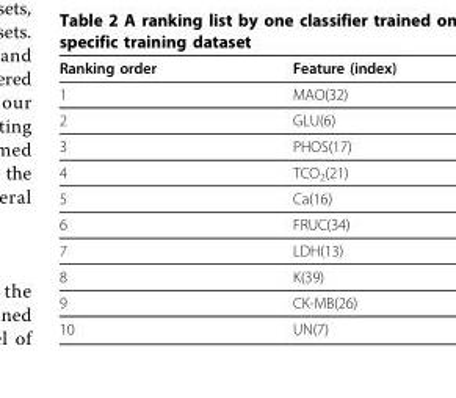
<table><thead><tr><td>Ranking order</td><td>Feature (index)</td></tr></thead><tbody><tr><td>1</td><td>MAO(32)</td></tr><tr><td>2</td><td>GLU(6)</td></tr><tr><td>3</td><td>PHOS(17)</td></tr><tr><td>4</td><td>TCO2(21)</td></tr><tr><td>5</td><td>Ca(16)</td></tr><tr><td>6</td><td>FRUC(34)</td></tr><tr><td>7</td><td>LDH(13)</td></tr><tr><td>8</td><td>K(39)</td></tr><tr><td>9</td><td>CK-MB(26)</td></tr><tr><td>10</td><td>UN(7)</td></tr></tbody></table>